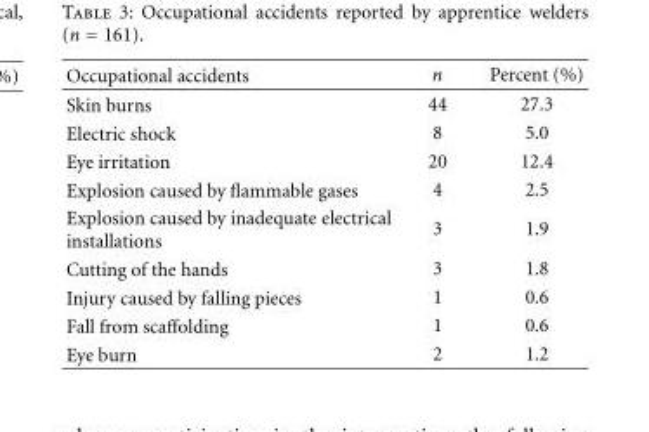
<table><thead><tr><td>Occupational accidents</td><td>n</td><td>Percent (%)</td></tr></thead><tbody><tr><td>Skin burns</td><td>44</td><td>27.3</td></tr><tr><td>Electric shock</td><td>8</td><td>5.0</td></tr><tr><td>Eye irritation</td><td>20</td><td>12.4</td></tr><tr><td>Explosion caused by flammable gases</td><td>4</td><td>2.5</td></tr><tr><td>Explosion caused by inadequate electrical installations</td><td>3</td><td>1.9</td></tr><tr><td>Cutting of the hands</td><td>3</td><td>1.8</td></tr><tr><td>Injury caused by falling pieces</td><td>1</td><td>0.6</td></tr><tr><td>Fall from scaffolding</td><td>1</td><td>0.6</td></tr><tr><td>Eye burn</td><td>2</td><td>1.2</td></tr></tbody></table>